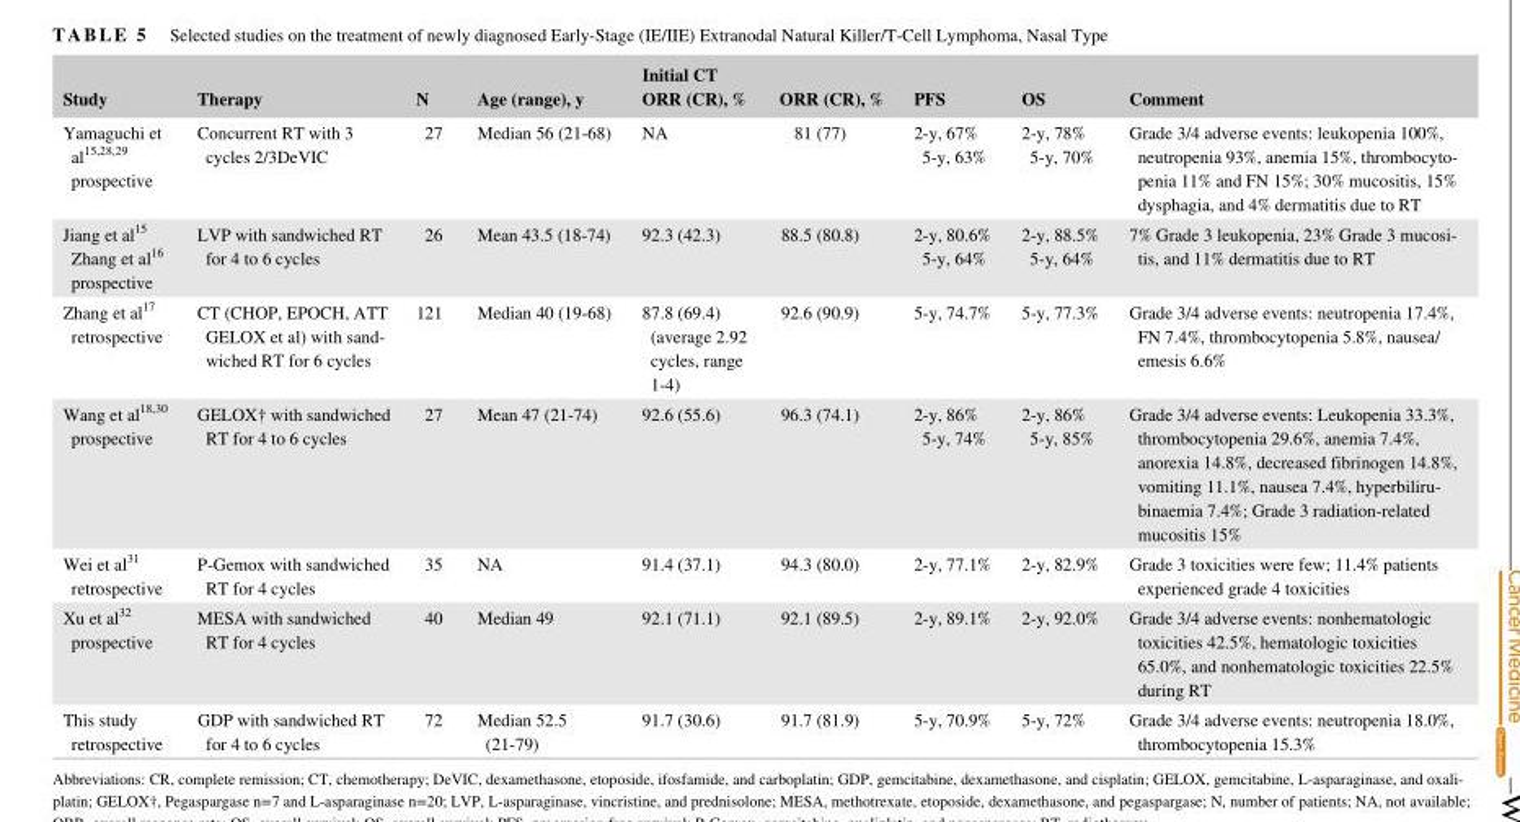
<table><thead><tr><td>Study</td><td>Therapy</td><td>N</td><td>Age (range), y</td><td>Initial CT ORR (CR), %</td><td>ORR (CR), %</td><td>PFS</td><td>OS</td><td>Comment</td></tr></thead><tbody><tr><td>Yamaguchi et al<sup>15</sup>,<sup>28</sup>,<sup>29</sup> prospective</td><td>Concurrent RT with 3 cycles 2/3DeVIC</td><td>27</td><td>Median 56 (21‐68)</td><td>NA</td><td>81 (77)</td><td>2‐y, 67% 5‐y, 63%</td><td>2‐y, 78% 5‐y, 70%</td><td>Grade 3/4 adverse events: leukopenia 100%, neutropenia 93%, anemia 15%, thrombocyto- penia 11% and FN 15%; 30% mucositis, 15% dysphagia, and 4% dermatitis due to RT</td></tr><tr><td>Jiang et al<sup>15</sup> Zhang et al<sup>16</sup> prospective</td><td>LVP with sandwiched RT for 4 to 6 cycles</td><td>26</td><td>Mean 43.5 (18‐74)</td><td>92.3 (42.3)</td><td>88.5 (80.8)</td><td>2‐y, 80.6% 5‐y, 64%</td><td>2‐y, 88.5% 5‐y, 64%</td><td>7% Grade 3 leukopenia, 23% Grade 3 mucosi- tis, and 11% dermatitis due to RT</td></tr><tr><td>Zhang et al<sup>17</sup> retrospective</td><td>CT (CHOP, EPOCH, ATT GELOX et al) with sand- wiched RT for 6 cycles</td><td>121</td><td>Median 40 (19‐68)</td><td>87.8 (69.4) (average 2.92 cycles, range 1‐4)</td><td>92.6 (90.9)</td><td>5‐y, 74.7%</td><td>5‐y, 77.3%</td><td>Grade 3/4 adverse events: neutropenia 17.4%, FN 7.4%, thrombocytopenia 5.8%, nausea/ emesis 6.6%</td></tr><tr><td>Wang et al<sup>18</sup>,<sup>30</sup> prospective</td><td>GELOX† with sandwiched RT for 4 to 6 cycles</td><td>27</td><td>Mean 47 (21‐74)</td><td>92.6 (55.6)</td><td>96.3 (74.1)</td><td>2‐y, 86% 5‐y, 74%</td><td>2‐y, 86% 5‐y, 85%</td><td>Grade 3/4 adverse events: Leukopenia 33.3%, thrombocytopenia 29.6%, anemia 7.4%, anorexia 14.8%, decreased fibrinogen 14.8%, vomiting 11.1%, nausea 7.4%, hyperbiliru- binaemia 7.4%; Grade 3 radiation‐related mucositis 15%</td></tr><tr><td>Wei et al<sup>31</sup> retrospective</td><td>P‐Gemox with sandwiched RT for 4 cycles</td><td>35</td><td>NA</td><td>91.4 (37.1)</td><td>94.3 (80.0)</td><td>2‐y, 77.1%</td><td>2‐y, 82.9%</td><td>Grade 3 toxicities were few; 11.4% patients experienced grade 4 toxicities</td></tr><tr><td>Xu et al<sup>32</sup> prospective</td><td>MESA with sandwiched RT for 4 cycles</td><td>40</td><td>Median 49</td><td>92.1 (71.1)</td><td>92.1 (89.5)</td><td>2‐y, 89.1%</td><td>2‐y, 92.0%</td><td>Grade 3/4 adverse events: nonhematologic toxicities 42.5%, hematologic toxicities 65.0%, and nonhematologic toxicities 22.5% during RT</td></tr><tr><td>This study retrospective</td><td>GDP with sandwiched RT for 4 to 6 cycles</td><td>72</td><td>Median 52.5 (21‐79)</td><td>91.7 (30.6)</td><td>91.7 (81.9)</td><td>5‐y, 70.9%</td><td>5‐y, 72%</td><td>Grade 3/4 adverse events: neutropenia 18.0%, thrombocytopenia 15.3%</td></tr></tbody></table>